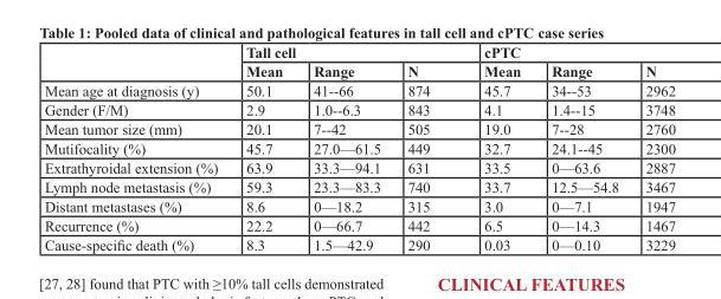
<table><thead><tr><td rowspan="2"></td><td colspan="3">Tall cell</td><td colspan="3">cPTC</td></tr><tr><td>Mean</td><td>Range</td><td>N</td><td>Mean</td><td>Range</td><td>N</td></tr></thead><tbody><tr><td>Mean age at diagnosis (y)</td><td>50.1</td><td>41--66</td><td>874</td><td>45.7</td><td>34--53</td><td>2962</td></tr><tr><td>Gender (F/M)</td><td>2.9</td><td>1.0--6.3</td><td>843</td><td>4.1</td><td>1.4--15</td><td>3748</td></tr><tr><td>Mean tumor size (mm)</td><td>20.1</td><td>7--42</td><td>505</td><td>19.0</td><td>7--28</td><td>2760</td></tr><tr><td>Mutifocality (%)</td><td>45.7</td><td>27.0—61.5</td><td>449</td><td>32.7</td><td>24.1--45</td><td>2300</td></tr><tr><td>Extrathyroidal extension (%)</td><td>63.9</td><td>33.3—94.1</td><td>631</td><td>33.5</td><td>0—63.6</td><td>2887</td></tr><tr><td>Lymph node metastasis (%)</td><td>59.3</td><td>23.3—83.3</td><td>740</td><td>33.7</td><td>12.5—54.8</td><td>3467</td></tr><tr><td>Distant metastases (%)</td><td>8.6</td><td>0—18.2</td><td>315</td><td>3.0</td><td>0—7.1</td><td>1947</td></tr><tr><td>Recurrence (%)</td><td>22.2</td><td>0—66.7</td><td>442</td><td>6.5</td><td>0—14.3</td><td>1467</td></tr><tr><td>Cause-specific death (%)</td><td>8.3</td><td>1.5—42.9</td><td>290</td><td>0.03</td><td>0—0.10</td><td>3229</td></tr></tbody></table>